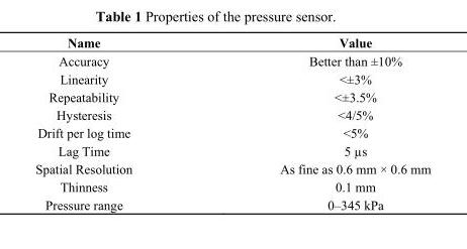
<table><thead><tr><td>Name</td><td>Value</td></tr></thead><tbody><tr><td>Accuracy</td><td>Better than ±10%</td></tr><tr><td>Linearity</td><td>&lt;±3%</td></tr><tr><td>Repeatability</td><td>&lt;±3.5%</td></tr><tr><td>Hysteresis</td><td>&lt;4/5%</td></tr><tr><td>Drift per log time</td><td>&lt;5%</td></tr><tr><td>Lag Time</td><td>5 µs</td></tr><tr><td>Spatial Resolution</td><td>As fine as 0.6 mm × 0.6 mm</td></tr><tr><td>Thinness</td><td>0.1 mm</td></tr><tr><td>Pressure range</td><td>0–345 kPa</td></tr></tbody></table>